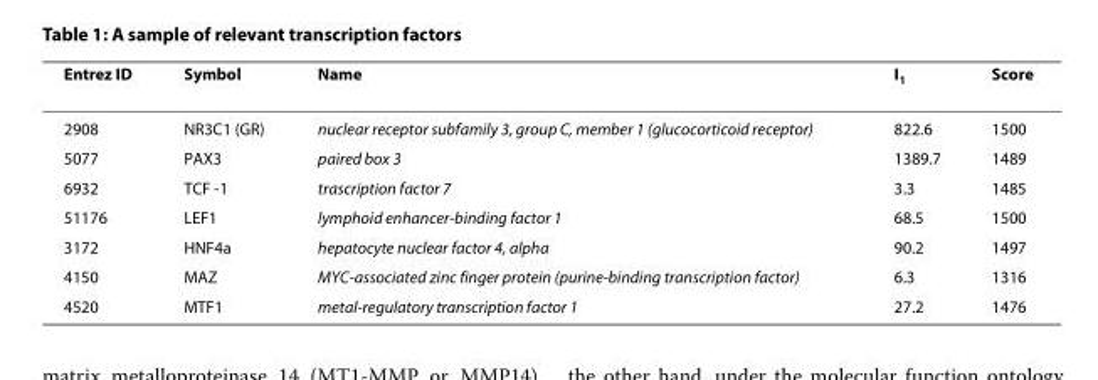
<table><thead><tr><td>Entrez ID</td><td>Symbol</td><td>Name</td><td>I<sub>1</sub></td><td>Score</td></tr></thead><tbody><tr><td>2908</td><td>NR3C1 (GR)</td><td>nuclear receptor subfamily 3, group C, member 1 (glucocorticoid receptor)</td><td>822.6</td><td>1500</td></tr><tr><td>5077</td><td>PAX3</td><td>paired box 3</td><td>1389.7</td><td>1489</td></tr><tr><td>6932</td><td>TCF -1</td><td>trascription factor 7</td><td>3.3</td><td>1485</td></tr><tr><td>51176</td><td>LEF1</td><td>lymphoid enhancer-binding factor 1</td><td>68.5</td><td>1500</td></tr><tr><td>3172</td><td>HNF4a</td><td>hepatocyte nuclear factor 4, alpha</td><td>90.2</td><td>1497</td></tr><tr><td>4150</td><td>MAZ</td><td>MYC-associated zinc finger protein (purine-binding transcription factor)</td><td>6.3</td><td>1316</td></tr><tr><td>4520</td><td>MTF1</td><td>metal-regulatory transcription factor 1</td><td>27.2</td><td>1476</td></tr></tbody></table>